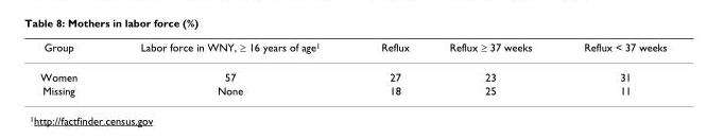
<table><thead><tr><td>Group</td><td>Labor force in WNY, ≥ 16 years of age<sup>1</sup></td><td>Reflux</td><td>Reflux ≥ 37 weeks</td><td>Reflux &lt; 37 weeks</td></tr></thead><tbody><tr><td>Women</td><td>57</td><td>27</td><td>23</td><td>31</td></tr><tr><td>Missing</td><td>None</td><td>18</td><td>25</td><td>11</td></tr></tbody></table>